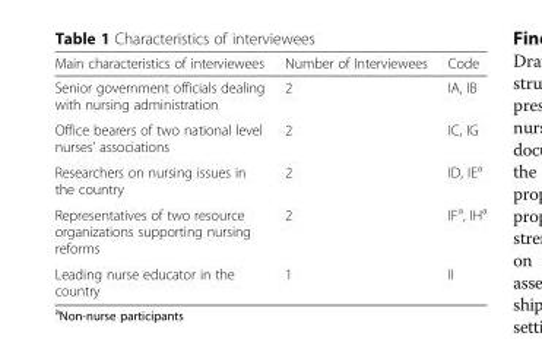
<table><thead><tr><td>Main characteristics of interviewees</td><td>Number of Interviewees</td><td>Code</td></tr></thead><tbody><tr><td>Senior government officials dealing with nursing administration</td><td>2</td><td>IA, IB</td></tr><tr><td>Office bearers of two national level nurses’ associations</td><td>2</td><td>IC, IG</td></tr><tr><td>Researchers on nursing issues in the country</td><td>2</td><td>ID, IE<sup>a</sup></td></tr><tr><td>Representatives of two resource organizations supporting nursing reforms</td><td>2</td><td>IF<sup>a</sup>, IH<sup>a</sup></td></tr><tr><td>Leading nurse educator in the country</td><td>1</td><td>II</td></tr></tbody></table>